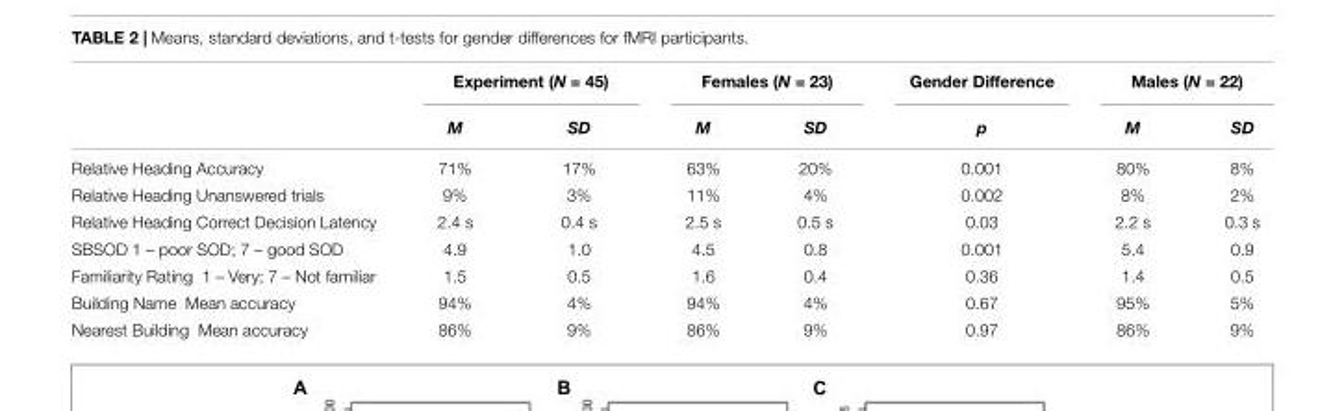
<table><thead><tr><td rowspan="2"></td><td colspan="2">Experiment (N = 45)</td><td colspan="2">Females (N = 23)</td><td rowspan="2">Gender Difference p</td><td colspan="2">Males (N = 22)</td></tr><tr><td>M</td><td>SD</td><td>M</td><td>SD</td><td>M</td><td>SD</td></tr></thead><tbody><tr><td>Relative Heading Accuracy</td><td>71%</td><td>17%</td><td>63%</td><td>20%</td><td>0.001</td><td>80%</td><td>8%</td></tr><tr><td>Relative Heading Unanswered trials</td><td>9%</td><td>3%</td><td>11%</td><td>4%</td><td>0.002</td><td>8%</td><td>2%</td></tr><tr><td>Relative Heading Correct Decision Latency</td><td>2.4 s</td><td>0.4 s</td><td>2.5 s</td><td>0.5 s</td><td>0.03</td><td>2.2 s</td><td>0.3 s</td></tr><tr><td>SBSOD 1 – poor SOD; 7 – good SOD</td><td>4.9</td><td>1.0</td><td>4.5</td><td>0.8</td><td>0.001</td><td>5.4</td><td>0.9</td></tr><tr><td>Familiarity Rating 1 – Very; 7 – Not familiar</td><td>1.5</td><td>0.5</td><td>1.6</td><td>0.4</td><td>0.36</td><td>1.4</td><td>0.5</td></tr><tr><td>Building Name Mean accuracy</td><td>94%</td><td>4%</td><td>94%</td><td>4%</td><td>0.67</td><td>95%</td><td>5%</td></tr><tr><td>Nearest Building Mean accuracy</td><td>86%</td><td>9%</td><td>86%</td><td>9%</td><td>0.97</td><td>86%</td><td>9%</td></tr></tbody></table>